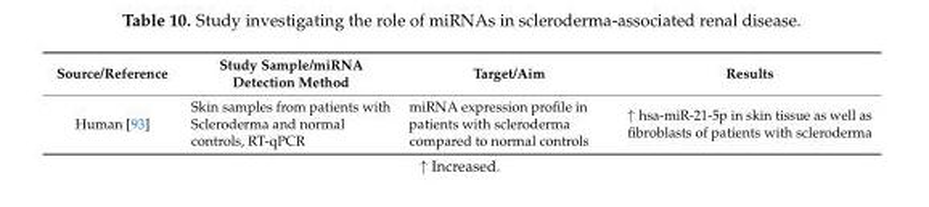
<table><thead><tr><td>Source/Reference</td><td>Study Sample/miRNA Detection Method</td><td>Target/Aim</td><td>Results</td></tr></thead><tbody><tr><td>Human [93]</td><td>Skin samples from patients with Scleroderma and normal controls, RT-qPCR</td><td>miRNA expression profile in patients with scleroderma compared to normal controls</td><td>↑ hsa-miR-21-5p in skin tissue as well as fibroblasts of patients with scleroderma</td></tr></tbody></table>